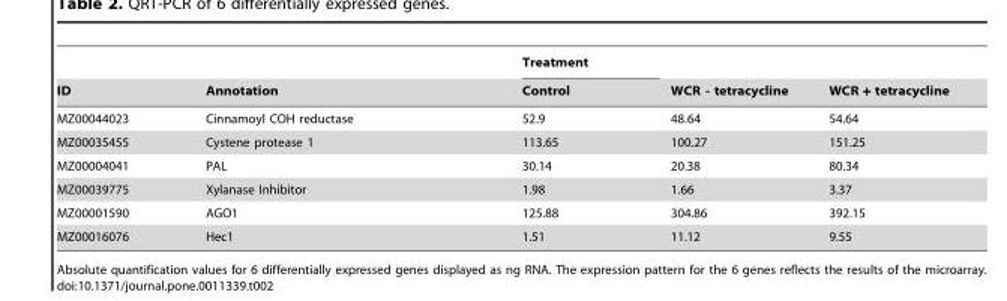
<table><thead><tr><td rowspan="2">ID</td><td rowspan="2">Annotation</td><td rowspan="2">Treatment Control</td><td rowspan="2">WCR - tetracycline</td><td rowspan="2">WCR + tetracycline</td></tr><tr></tr></thead><tbody><tr><td>MZ00044023</td><td>Cinnamoyl COH reductase</td><td>52.9</td><td>48.64</td><td>54.64</td></tr><tr><td>MZ00035455</td><td>Cystene protease 1</td><td>113.65</td><td>100.27</td><td>151.25</td></tr><tr><td>MZ00004041</td><td>PAL</td><td>30.14</td><td>20.38</td><td>80.34</td></tr><tr><td>MZ00039775</td><td>Xylanase Inhibitor</td><td>1.98</td><td>1.66</td><td>3.37</td></tr><tr><td>MZ00001590</td><td>AGO1</td><td>125.88</td><td>304.86</td><td>392.15</td></tr><tr><td>MZ00016076</td><td>Hec1</td><td>1.51</td><td>11.12</td><td>9.55</td></tr></tbody></table>